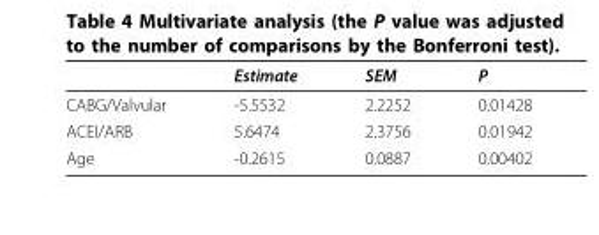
<table><thead><tr><td></td><td>Estimate</td><td>SEM</td><td>P</td></tr></thead><tbody><tr><td>CABG/Valvular</td><td>-5.5532</td><td>2.2252</td><td>0.01428</td></tr><tr><td>ACEI/ARB</td><td>5.6474</td><td>2.3756</td><td>0.01942</td></tr><tr><td>Age</td><td>-0.2615</td><td>0.0887</td><td>0.00402</td></tr></tbody></table>